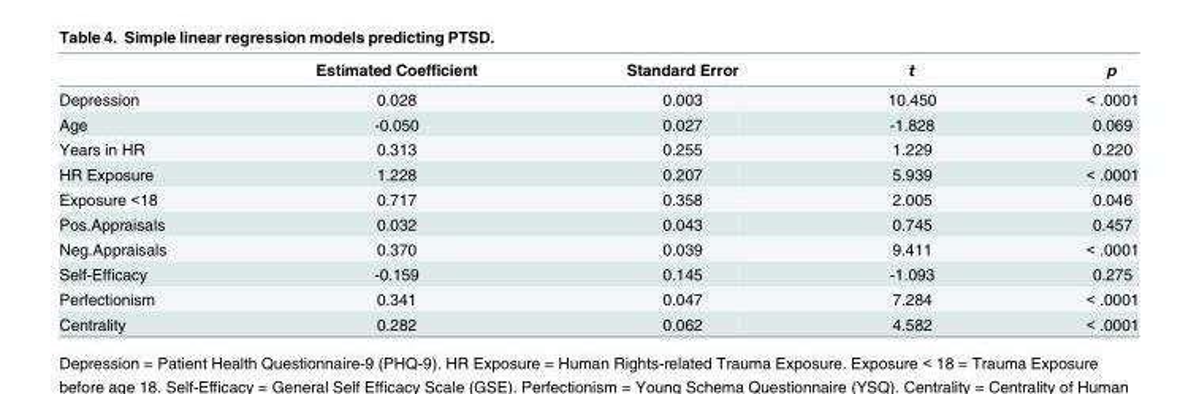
<table><thead><tr><td></td><td>Estimated Coefficient</td><td>Standard Error</td><td>t</td><td>p</td></tr></thead><tbody><tr><td>Depression</td><td>0.028</td><td>0.003</td><td>10.450</td><td>&lt; .0001</td></tr><tr><td>Age</td><td>-0.050</td><td>0.027</td><td>-1.828</td><td>0.069</td></tr><tr><td>Years in HR</td><td>0.313</td><td>0.255</td><td>1.229</td><td>0.220</td></tr><tr><td>HR Exposure</td><td>1.228</td><td>0.207</td><td>5.939</td><td>&lt; .0001</td></tr><tr><td>Exposure &lt;18</td><td>0.717</td><td>0.358</td><td>2.005</td><td>0.046</td></tr><tr><td>Pos.Appraisals</td><td>0.032</td><td>0.043</td><td>0.745</td><td>0.457</td></tr><tr><td>Neg.Appraisals</td><td>0.370</td><td>0.039</td><td>9.411</td><td>&lt; .0001</td></tr><tr><td>Self-Efficacy</td><td>-0.159</td><td>0.145</td><td>-1.093</td><td>0.275</td></tr><tr><td>Perfectionism</td><td>0.341</td><td>0.047</td><td>7.284</td><td>&lt; .0001</td></tr><tr><td>Centrality</td><td>0.282</td><td>0.062</td><td>4.582</td><td>&lt; .0001</td></tr></tbody></table>